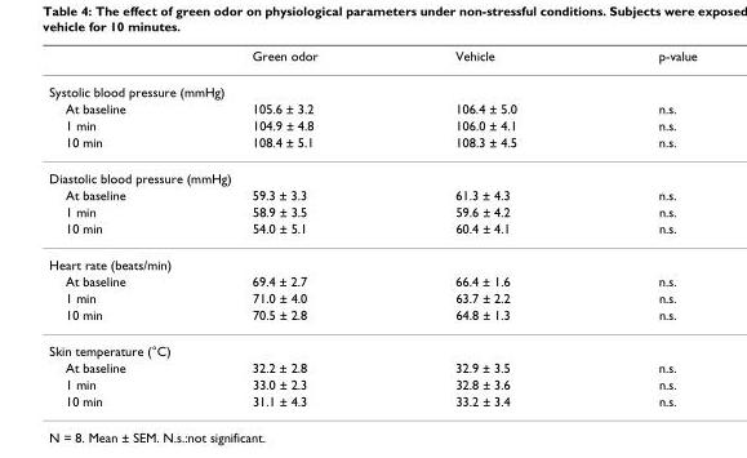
<table><thead><tr><td></td><td>Green odor</td><td>Vehicle</td><td>p-value</td></tr></thead><tbody><tr><td colspan="4">Systolic blood pressure (mmHg)</td></tr><tr><td>At baseline</td><td>105.6 ± 3.2</td><td>106.4 ± 5.0</td><td>n.s.</td></tr><tr><td>1 min</td><td>104.9 ± 4.8</td><td>106.0 ± 4.1</td><td>n.s.</td></tr><tr><td>10 min</td><td>108.4 ± 5.1</td><td>108.3 ± 4.5</td><td>n.s.</td></tr><tr><td colspan="4">Diastolic blood pressure (mmHg)</td></tr><tr><td>At baseline</td><td>59.3 ± 3.3</td><td>61.3 ± 4.3</td><td>n.s.</td></tr><tr><td>1 min</td><td>58.9 ± 3.5</td><td>59.6 ± 4.2</td><td>n.s.</td></tr><tr><td>10 min</td><td>54.0 ± 5.1</td><td>60.4 ± 4.1</td><td>n.s.</td></tr><tr><td colspan="4">Heart rate (beats/min)</td></tr><tr><td>At baseline</td><td>69.4 ± 2.7</td><td>66.4 ± 1.6</td><td>n.s.</td></tr><tr><td>1 min</td><td>71.0 ± 4.0</td><td>63.7 ± 2.2</td><td>n.s.</td></tr><tr><td>10 min</td><td>70.5 ± 2.8</td><td>64.8 ± 1.3</td><td>n.s.</td></tr><tr><td colspan="4">Skin temperature (°C)</td></tr><tr><td>At baseline</td><td>32.2 ± 2.8</td><td>32.9 ± 3.5</td><td>n.s.</td></tr><tr><td>1 min</td><td>33.0 ± 2.3</td><td>32.8 ± 3.6</td><td>n.s.</td></tr><tr><td>10 min</td><td>31.1 ± 4.3</td><td>33.2 ± 3.4</td><td>n.s.</td></tr></tbody></table>